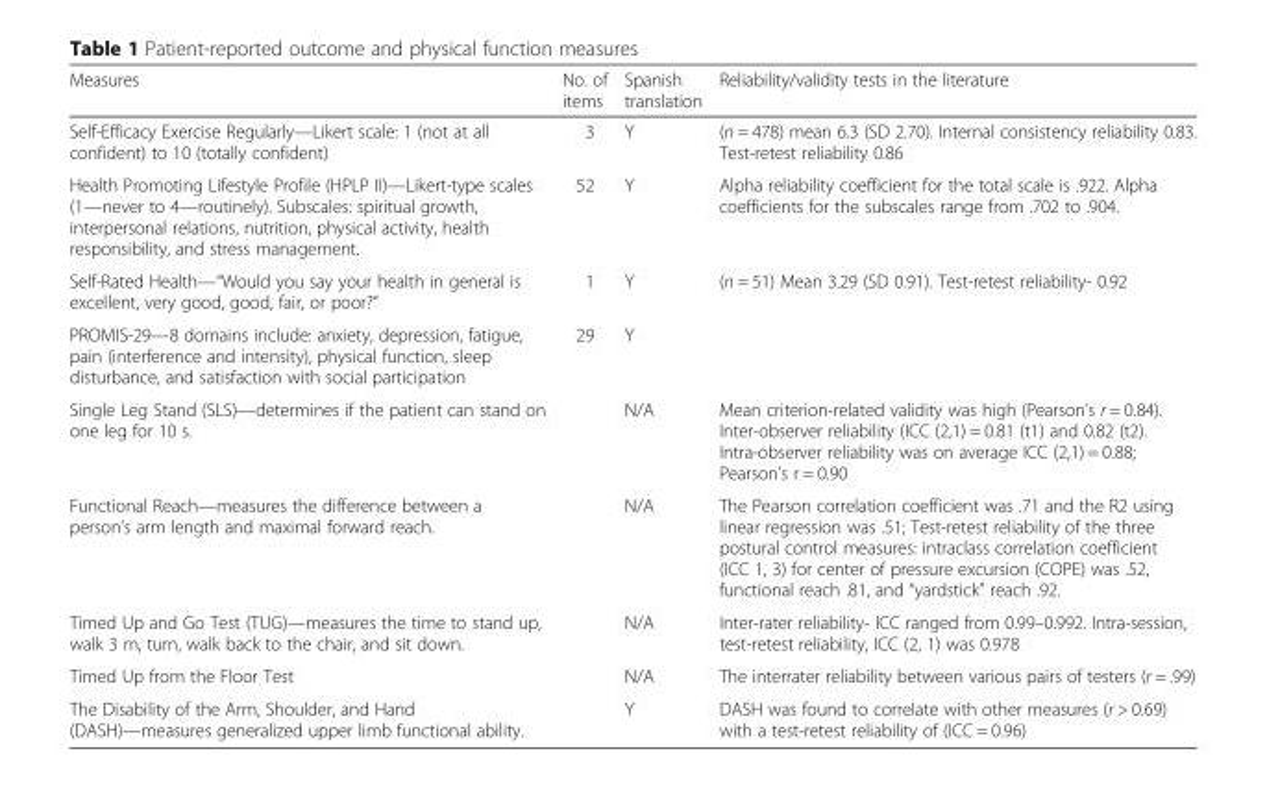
<table><thead><tr><td>Measures</td><td>No. of items</td><td>Spanish translation</td><td>Reliability/validity tests in the literature</td></tr></thead><tbody><tr><td>Self-Efficacy Exercise Regularly—Likert scale: 1 (not at all confident) to 10 (totally confident)</td><td>3</td><td>Y</td><td>(n = 478) mean 6.3 (SD 2.70). Internal consistency reliability 0.83. Test-retest reliability 0.86</td></tr><tr><td>Health Promoting Lifestyle Profile (HPLP II)—Likert-type scales (1—never to 4—routinely). Subscales: spiritual growth, interpersonal relations, nutrition, physical activity, health responsibility, and stress management.</td><td>52</td><td>Y</td><td>Alpha reliability coefficient for the total scale is .922. Alpha coefficients for the subscales range from .702 to .904.</td></tr><tr><td>Self-Rated Health—“Would you say your health in general is excellent, very good, good, fair, or poor?”</td><td>1</td><td>Y</td><td>(n = 51) Mean 3.29 (SD 0.91). Test-retest reliability- 0.92</td></tr><tr><td>PROMIS-29—8 domains include: anxiety, depression, fatigue, pain (interference and intensity), physical function, sleep disturbance, and satisfaction with social participation</td><td>29</td><td>Y</td><td></td></tr><tr><td>Single Leg Stand (SLS)—determines if the patient can stand on one leg for 10 s.</td><td></td><td>N/A</td><td>Mean criterion-related validity was high (Pearson’s r = 0.84). Inter-observer reliability (ICC (2,1) = 0.81 (t1) and 0.82 (t2). Intra-observer reliability was on average ICC (2,1) = 0.88; Pearson’s r = 0.90</td></tr><tr><td>Functional Reach—measures the difference between a person’s arm length and maximal forward reach.</td><td></td><td>N/A</td><td>The Pearson correlation coefficient was .71 and the R2 using linear regression was .51; Test-retest reliability of the three postural control measures: intraclass correlation coefficient (ICC 1, 3) for center of pressure excursion (COPE) was .52, functional reach .81, and “yardstick” reach .92.</td></tr><tr><td>Timed Up and Go Test (TUG)—measures the time to stand up, walk 3 m, turn, walk back to the chair, and sit down.</td><td></td><td>N/A</td><td>Inter-rater reliability- ICC ranged from 0.99–0.992. Intra-session, test-retest reliability, ICC (2, 1) was 0.978</td></tr><tr><td>Timed Up from the Floor Test</td><td></td><td>N/A</td><td>The interrater reliability between various pairs of testers (r = .99)</td></tr><tr><td>The Disability of the Arm, Shoulder, and Hand (DASH)—measures generalized upper limb functional ability.</td><td></td><td>Y</td><td>DASH was found to correlate with other measures (r &gt; 0.69) with a test-retest reliability of (ICC = 0.96)</td></tr></tbody></table>